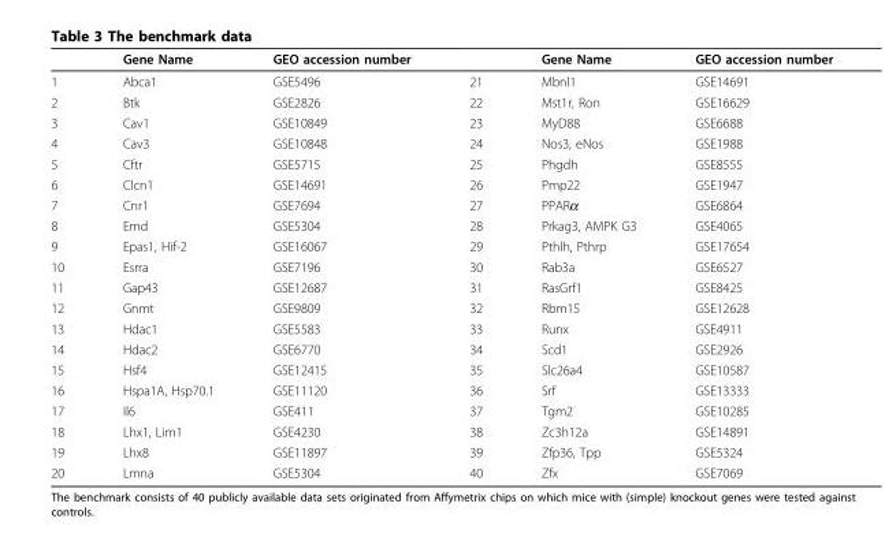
<table><thead><tr><td></td><td>Gene Name</td><td>GEO accession number</td><td></td><td>Gene Name</td><td>GEO accession number</td></tr></thead><tbody><tr><td>1</td><td>Abca1</td><td>GSE5496</td><td>21</td><td>Mbnl1</td><td>GSE14691</td></tr><tr><td>2</td><td>Btk</td><td>GSE2826</td><td>22</td><td>Mst1r, Ron</td><td>GSE16629</td></tr><tr><td>3</td><td>Cav1</td><td>GSE10849</td><td>23</td><td>MyD88</td><td>GSE6688</td></tr><tr><td>4</td><td>Cav3</td><td>GSE10848</td><td>24</td><td>Nos3, eNos</td><td>GSE1988</td></tr><tr><td>5</td><td>Cftr</td><td>GSE5715</td><td>25</td><td>Phgdh</td><td>GSE8555</td></tr><tr><td>6</td><td>Clcn1</td><td>GSE14691</td><td>26</td><td>Pmp22</td><td>GSE1947</td></tr><tr><td>7</td><td>Cnr1</td><td>GSE7694</td><td>27</td><td>PPARα</td><td>GSE6864</td></tr><tr><td>8</td><td>Emd</td><td>GSE5304</td><td>28</td><td>Prkag3, AMPK G3</td><td>GSE4065</td></tr><tr><td>9</td><td>Epas1, Hif-2</td><td>GSE16067</td><td>29</td><td>Pthlh, Pthrp</td><td>GSE17654</td></tr><tr><td>10</td><td>Esrra</td><td>GSE7196</td><td>30</td><td>Rab3a</td><td>GSE6527</td></tr><tr><td>11</td><td>Gap43</td><td>GSE12687</td><td>31</td><td>RasGrf1</td><td>GSE8425</td></tr><tr><td>12</td><td>Gnmt</td><td>GSE9809</td><td>32</td><td>Rbm15</td><td>GSE12628</td></tr><tr><td>13</td><td>Hdac1</td><td>GSE5583</td><td>33</td><td>Runx</td><td>GSE4911</td></tr><tr><td>14</td><td>Hdac2</td><td>GSE6770</td><td>34</td><td>Scd1</td><td>GSE2926</td></tr><tr><td>15</td><td>Hsf4</td><td>GSE12415</td><td>35</td><td>Slc26a4</td><td>GSE10587</td></tr><tr><td>16</td><td>Hspa1A, Hsp70.1</td><td>GSE11120</td><td>36</td><td>Srf</td><td>GSE13333</td></tr><tr><td>17</td><td>Il6</td><td>GSE411</td><td>37</td><td>Tgm2</td><td>GSE10285</td></tr><tr><td>18</td><td>Lhx1, Lim1</td><td>GSE4230</td><td>38</td><td>Zc3h12a</td><td>GSE14891</td></tr><tr><td>19</td><td>Lhx8</td><td>GSE11897</td><td>39</td><td>Zfp36, Tpp</td><td>GSE5324</td></tr><tr><td>20</td><td>Lmna</td><td>GSE5304</td><td>40</td><td>Zfx</td><td>GSE7069</td></tr></tbody></table>